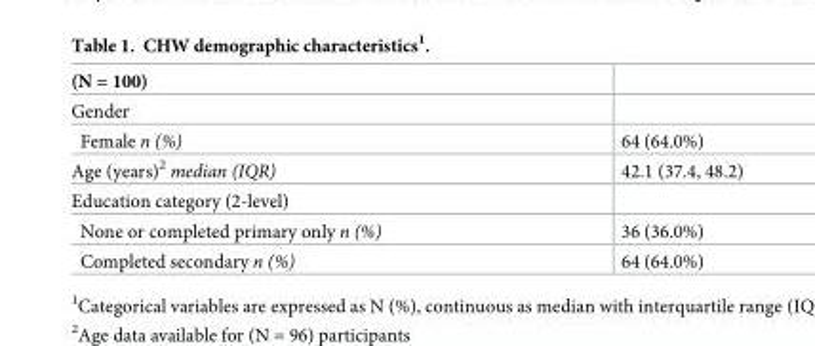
<table><thead><tr><td>(N = 100)</td><td></td></tr></thead><tbody><tr><td colspan="2">Gender</td></tr><tr><td>Female n (%)</td><td>64 (64.0%)</td></tr><tr><td>Age (years)<sup>2</sup> median (IQR)</td><td>42.1 (37.4, 48.2)</td></tr><tr><td colspan="2">Education category (2-level)</td></tr><tr><td>None or completed primary only n (%)</td><td>36 (36.0%)</td></tr><tr><td>Completed secondary n (%)</td><td>64 (64.0%)</td></tr></tbody></table>